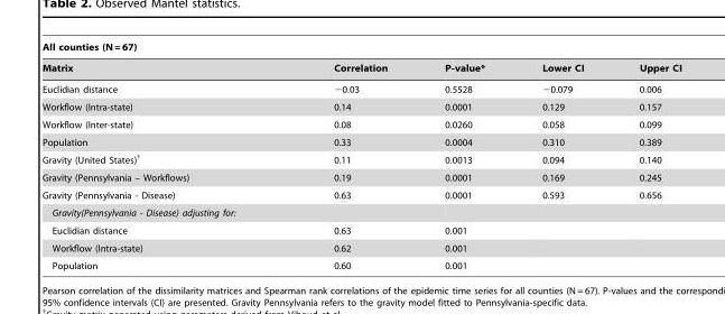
<table><thead><tr><td colspan="5">All counties (N = 67)</td></tr><tr><td>Matrix</td><td>Correlation</td><td>P-value*</td><td>Lower CI</td><td>Upper CI</td></tr></thead><tbody><tr><td>Euclidian distance</td><td>−0.03</td><td>0.5528</td><td>−0.079</td><td>0.006</td></tr><tr><td>Workflow (Intra-state)</td><td>0.14</td><td>0.0001</td><td>0.129</td><td>0.157</td></tr><tr><td>Workflow (Inter-state)</td><td>0.08</td><td>0.0260</td><td>0.058</td><td>0.099</td></tr><tr><td>Population</td><td>0.33</td><td>0.0004</td><td>0.310</td><td>0.389</td></tr><tr><td>Gravity (United States)†</td><td>0.11</td><td>0.0013</td><td>0.094</td><td>0.140</td></tr><tr><td>Gravity (Pennsylvania – Workflows)</td><td>0.19</td><td>0.0001</td><td>0.169</td><td>0.245</td></tr><tr><td>Gravity (Pennsylvania - Disease)</td><td>0.63</td><td>0.0001</td><td>0.593</td><td>0.656</td></tr><tr><td colspan="5">Gravity(Pennsylvania - Disease) adjusting for:</td></tr><tr><td>Euclidian distance</td><td>0.63</td><td>0.001</td><td></td><td></td></tr><tr><td>Workflow (Intra-state)</td><td>0.62</td><td>0.001</td><td></td><td></td></tr><tr><td>Population</td><td>0.60</td><td>0.001</td><td></td><td></td></tr></tbody></table>